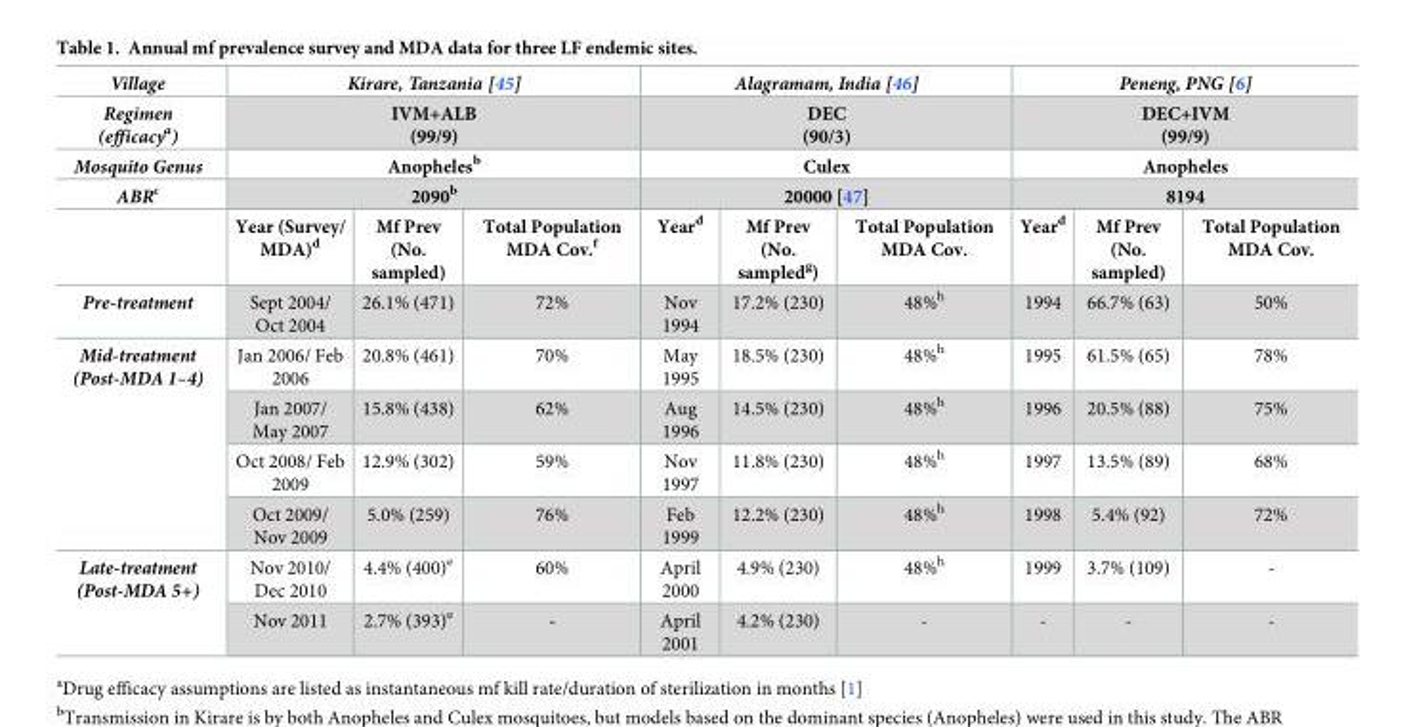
<table><thead><tr><td rowspan="5">Village Regimen (efficacy<sup>a</sup>) Mosquito Genus ABR<sup>c</sup></td><td rowspan="4" colspan="3">Kirare, Tanzania [45] IVM+ALB (99/9) Anopheles<sup>b</sup> 2090<sup>b</sup></td><td rowspan="4" colspan="3">Alagramam, India [46] DEC (90/3) Culex 20000 [47]</td><td rowspan="4" colspan="3">Peneng, PNG [6] DEC+IVM (99/9) Anopheles 8194</td></tr><tr></tr><tr></tr><tr></tr><tr><td>Year (Survey/ MDA)<sup>d</sup></td><td>Mf Prev (No. sampled)</td><td>Total Population MDA Cov.<sup>f</sup></td><td>Year<sup>d</sup></td><td>Mf Prev (No. sampled<sup>g</sup>)</td><td>Total Population MDA Cov.</td><td>Year<sup>d</sup></td><td>Mf Prev (No. sampled)</td><td>Total Population MDA Cov.</td></tr></thead><tbody><tr><td>Pre-treatment</td><td>Sept 2004/ Oct 2004</td><td>26.1% (471)</td><td>72%</td><td>Nov 1994</td><td>17.2% (230)</td><td>48%<sup>h</sup></td><td>1994</td><td>66.7% (63)</td><td>50%</td></tr><tr><td rowspan="4">Mid-treatment (Post-MDA 1–4)</td><td>Jan 2006/ Feb 2006</td><td>20.8% (461)</td><td>70%</td><td>May 1995</td><td>18.5% (230)</td><td>48%<sup>h</sup></td><td>1995</td><td>61.5% (65)</td><td>78%</td></tr><tr><td>Jan 2007/ May 2007</td><td>15.8% (438)</td><td>62%</td><td>Aug 1996</td><td>14.5% (230)</td><td>48%<sup>h</sup></td><td>1996</td><td>20.5% (88)</td><td>75%</td></tr><tr><td>Oct 2008/ Feb 2009</td><td>12.9% (302)</td><td>59%</td><td>Nov 1997</td><td>11.8% (230)</td><td>48%<sup>h</sup></td><td>1997</td><td>13.5% (89)</td><td>68%</td></tr><tr><td>Oct 2009/ Nov 2009</td><td>5.0% (259)</td><td>76%</td><td>Feb 1999</td><td>12.2% (230)</td><td>48%<sup>h</sup></td><td>1998</td><td>5.4% (92)</td><td>72%</td></tr><tr><td rowspan="2">Late-treatment (Post-MDA 5+)</td><td>Nov 2010/ Dec 2010</td><td>4.4% (400)<sup>e</sup></td><td>60%</td><td>April 2000</td><td>4.9% (230)</td><td>48%<sup>h</sup></td><td>1999</td><td>3.7% (109)</td><td>-</td></tr><tr><td>Nov 2011</td><td>2.7% (393)<sup>e</sup></td><td>-</td><td>April 2001</td><td>4.2% (230)</td><td>-</td><td>-</td><td>-</td><td>-</td></tr></tbody></table>